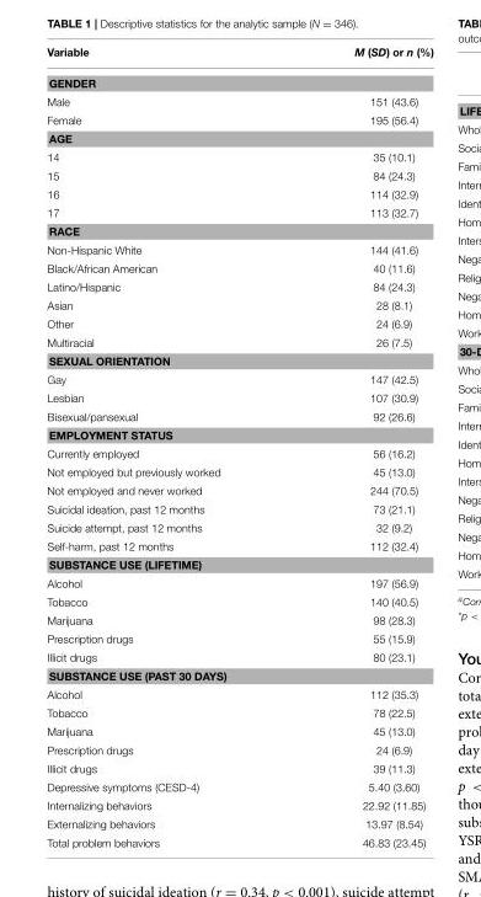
<table><thead><tr><td>Variable</td><td>M (SD) or n (%)</td></tr></thead><tbody><tr><td colspan="2">GENDER</td></tr><tr><td>Male</td><td>151 (43.6)</td></tr><tr><td>Female</td><td>195 (56.4)</td></tr><tr><td colspan="2">AGE</td></tr><tr><td>14</td><td>35 (10.1)</td></tr><tr><td>15</td><td>84 (24.3)</td></tr><tr><td>16</td><td>114 (32.9)</td></tr><tr><td>17</td><td>113 (32.7)</td></tr><tr><td colspan="2">RACE</td></tr><tr><td>Non-Hispanic White</td><td>144 (41.6)</td></tr><tr><td>Black/African American</td><td>40 (11.6)</td></tr><tr><td>Latino/Hispanic</td><td>84 (24.3)</td></tr><tr><td>Asian</td><td>28 (8.1)</td></tr><tr><td>Other</td><td>24 (6.9)</td></tr><tr><td>Multiracial</td><td>26 (7.5)</td></tr><tr><td colspan="2">SEXUAL ORIENTATION</td></tr><tr><td>Gay</td><td>147 (42.5)</td></tr><tr><td>Lesbian</td><td>107 (30.9)</td></tr><tr><td>Bisexual/pansexual</td><td>92 (26.6)</td></tr><tr><td colspan="2">EMPLOYMENT STATUS</td></tr><tr><td>Currently employed</td><td>56 (16.2)</td></tr><tr><td>Not employed but previously worked</td><td>45 (13.0)</td></tr><tr><td>Not employed and never worked</td><td>244 (70.5)</td></tr><tr><td>Suicidal ideation, past 12 months</td><td>73 (21.1)</td></tr><tr><td>Suicide attempt, past 12 months</td><td>32 (9.2)</td></tr><tr><td>Self-harm, past 12 months</td><td>112 (32.4)</td></tr><tr><td colspan="2">SUBSTANCE USE (LIFETIME)</td></tr><tr><td>Alcohol</td><td>197 (56.9)</td></tr><tr><td>Tobacco</td><td>140 (40.5)</td></tr><tr><td>Marijuana</td><td>98 (28.3)</td></tr><tr><td>Prescription drugs</td><td>55 (15.9)</td></tr><tr><td>Illicit drugs</td><td>80 (23.1)</td></tr><tr><td colspan="2">SUBSTANCE USE (PAST 30 DAYS)</td></tr><tr><td>Alcohol</td><td>112 (35.3)</td></tr><tr><td>Tobacco</td><td>78 (22.5)</td></tr><tr><td>Marijuana</td><td>45 (13.0)</td></tr><tr><td>Prescription drugs</td><td>24 (6.9)</td></tr><tr><td>Illicit drugs</td><td>39 (11.3)</td></tr><tr><td>Depressive symptoms (CESD-4)</td><td>5.40 (3.60)</td></tr><tr><td>Internalizing behaviors</td><td>22.92 (11.85)</td></tr><tr><td>Externalizing behaviors</td><td>13.97 (8.54)</td></tr><tr><td>Total problem behaviors</td><td>46.83 (23.45)</td></tr></tbody></table>